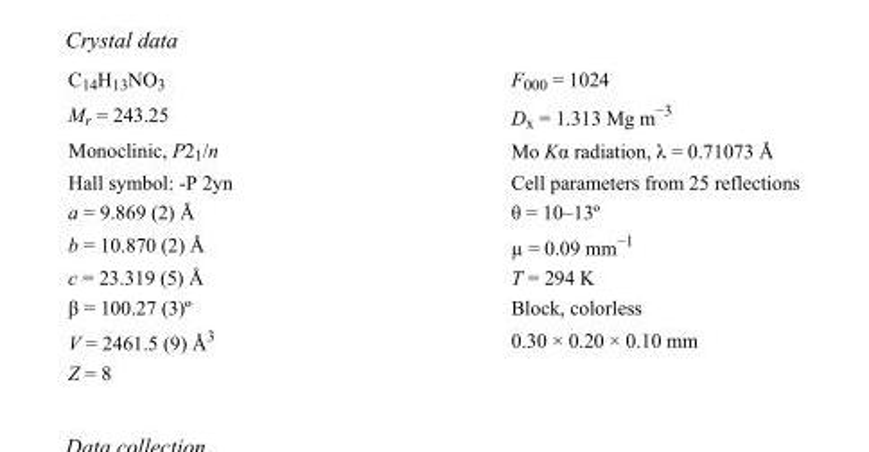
<table><tbody><tr><td>C<sub>14</sub>H<sub>13</sub>NO<sub>3</sub></td><td>F000 = 1024</td></tr><tr><td>M<sub>r</sub> = 243.25</td><td>D<sub>x</sub> = 1.313 Mg m<sup>−3</sup></td></tr><tr><td>Monoclinic, P2<sub>1</sub>/n</td><td>Mo Kα radiation, λ = 0.71073 Å</td></tr><tr><td>Hall symbol: -P 2yn</td><td>Cell parameters from 25 reflections</td></tr><tr><td>a = 9.869 (2) Å</td><td>θ = 10–13º</td></tr><tr><td>b = 10.870 (2) Å</td><td>µ = 0.09 mm<sup>−1</sup></td></tr><tr><td>c = 23.319 (5) Å</td><td>T = 294 K</td></tr><tr><td>β = 100.27 (3)º</td><td>Block, colorless</td></tr><tr><td>V = 2461.5 (9) Å<sup>3</sup></td><td>0.30 × 0.20 × 0.10 mm</td></tr><tr><td>Z = 8</td><td></td></tr></tbody></table>